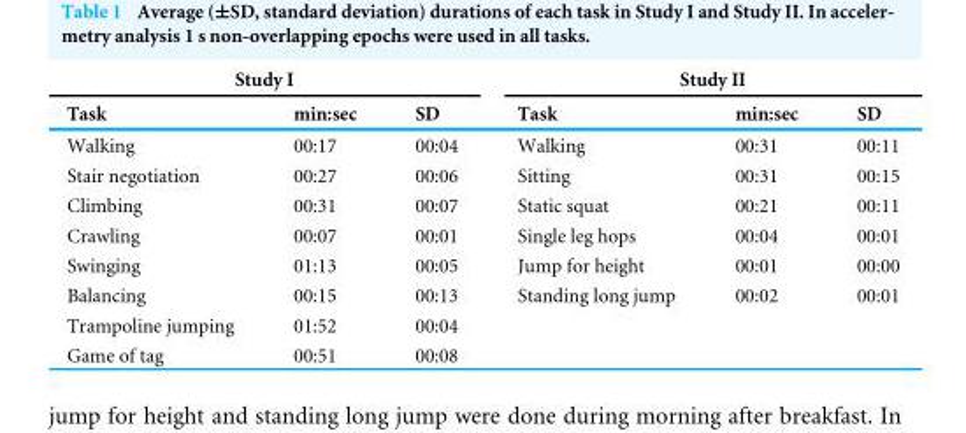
<table><thead><tr><td colspan="3">Study I</td><td colspan="3">Study II</td></tr><tr><td>Task</td><td>min:sec</td><td>SD</td><td>Task</td><td>min:sec</td><td>SD</td></tr></thead><tbody><tr><td>Walking</td><td>00:17</td><td>00:04</td><td>Walking</td><td>00:31</td><td>00:11</td></tr><tr><td>Stair negotiation</td><td>00:27</td><td>00:06</td><td>Sitting</td><td>00:31</td><td>00:15</td></tr><tr><td>Climbing</td><td>00:31</td><td>00:07</td><td>Static squat</td><td>00:21</td><td>00:11</td></tr><tr><td>Crawling</td><td>00:07</td><td>00:01</td><td>Single leg hops</td><td>00:04</td><td>00:01</td></tr><tr><td>Swinging</td><td>01:13</td><td>00:05</td><td>Jump for height</td><td>00:01</td><td>00:00</td></tr><tr><td>Balancing</td><td>00:15</td><td>00:13</td><td>Standing long jump</td><td>00:02</td><td>00:01</td></tr><tr><td>Trampoline jumping</td><td>01:52</td><td>00:04</td><td></td><td></td><td></td></tr><tr><td>Game of tag</td><td>00:51</td><td>00:08</td><td></td><td></td><td></td></tr></tbody></table>